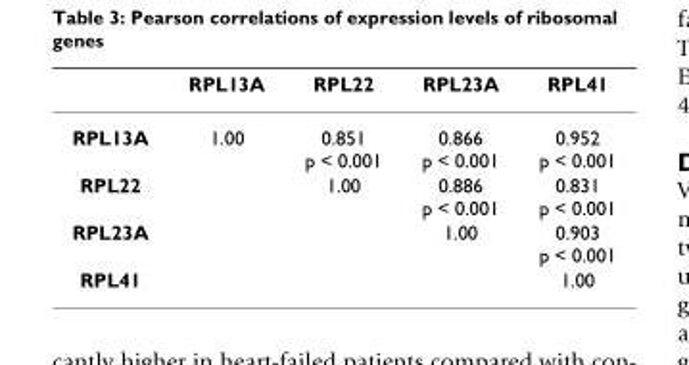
<table><thead><tr><td></td><td>RPL13A</td><td>RPL22</td><td>RPL23A</td><td>RPL41</td></tr></thead><tbody><tr><td>RPL13A</td><td>1.00</td><td>0.851 p &lt; 0.001</td><td>0.866 p &lt; 0.001</td><td>0.952 p &lt; 0.001</td></tr><tr><td>RPL22</td><td></td><td>1.00</td><td>0.886 p &lt; 0.001</td><td>0.831 p &lt; 0.001</td></tr><tr><td>RPL23A</td><td></td><td></td><td>1.00</td><td>0.903 p &lt; 0.001</td></tr><tr><td>RPL41</td><td></td><td></td><td></td><td>1.00</td></tr></tbody></table>